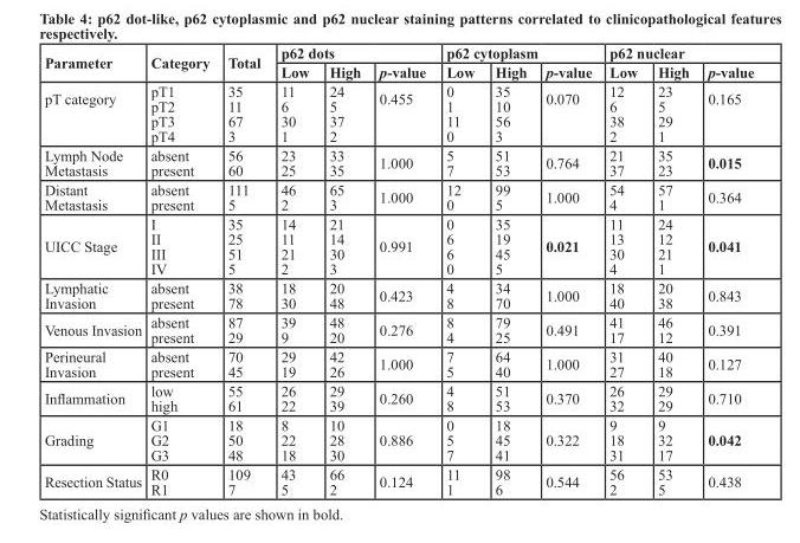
<table><thead><tr><td rowspan="2">Parameter</td><td rowspan="2">category</td><td rowspan="2">total</td><td colspan="3">p62 dots</td><td colspan="3">p62 cytoplasm</td><td colspan="3">p62 nuclear</td></tr><tr><td>low</td><td>High</td><td>p-value</td><td>low</td><td>High</td><td>p-value</td><td>low</td><td>High</td><td>p-value</td></tr></thead><tbody><tr><td>pT category</td><td>pT1 pT2 pT3 pT4</td><td>35 11 67 3</td><td>11 6 30 1</td><td>24 5 37 2</td><td>0.455</td><td>0 1 11 0</td><td>35 10 56 3</td><td>0.070</td><td>12 6 38 2</td><td>23 5 29 1</td><td>0.165</td></tr><tr><td>Lymph Node Metastasis</td><td>absent present</td><td>56 60</td><td>23 25</td><td>33 35</td><td>1.000</td><td>5 7</td><td>51 53</td><td>0.764</td><td>21 37</td><td>35 23</td><td>0.015</td></tr><tr><td>Distant Metastasis</td><td>absent present</td><td>111 5</td><td>46 2</td><td>65 3</td><td>1.000</td><td>12 0</td><td>99 5</td><td>1.000</td><td>54 4</td><td>57 1</td><td>0.364</td></tr><tr><td>UICC Stage</td><td>I II III IV</td><td>35 25 51 5</td><td>14 11 21 2</td><td>21 14 30 3</td><td>0.991</td><td>0 6 6 0</td><td>35 19 45 5</td><td>0.021</td><td>11 13 30 4</td><td>24 12 21 1</td><td>0.041</td></tr><tr><td>Lymphatic Invasion</td><td>absent present</td><td>38 78</td><td>18 30</td><td>20 48</td><td>0.423</td><td>4 8</td><td>34 70</td><td>1.000</td><td>18 40</td><td>20 38</td><td>0.843</td></tr><tr><td>Venous Invasion</td><td>absent present</td><td>87 29</td><td>39 9</td><td>48 20</td><td>0.276</td><td>8 4</td><td>79 25</td><td>0.491</td><td>41 17</td><td>46 12</td><td>0.391</td></tr><tr><td>Perineural Invasion</td><td>absent present</td><td>70 45</td><td>29 19</td><td>42 26</td><td>1.000</td><td>7 5</td><td>64 40</td><td>1.000</td><td>31 27</td><td>40 18</td><td>0.127</td></tr><tr><td>Inflammation</td><td>low high</td><td>55 61</td><td>26 22</td><td>29 39</td><td>0.260</td><td>4 8</td><td>51 53</td><td>0.370</td><td>26 32</td><td>29 29</td><td>0.710</td></tr><tr><td>Grading</td><td>G1 G2 G3</td><td>18 50 48</td><td>8 22 18</td><td>10 28 30</td><td>0.886</td><td>0 5 7</td><td>18 45 41</td><td>0.322</td><td>9 18 31</td><td>9 32 17</td><td>0.042</td></tr><tr><td>Resection Status</td><td>R0 R1</td><td>109 7</td><td>43 5</td><td>66 2</td><td>0.124</td><td>11 1</td><td>98 6</td><td>0.544</td><td>56 2</td><td>53 5</td><td>0.438</td></tr></tbody></table>